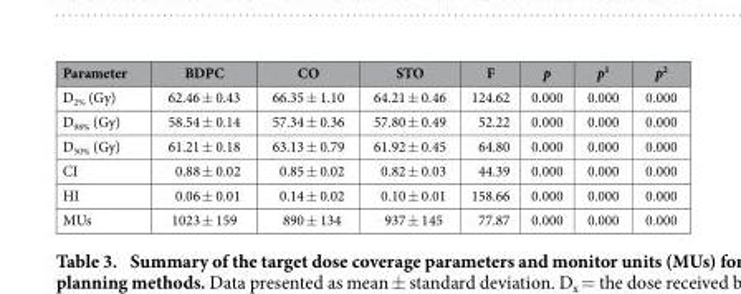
<table><thead><tr><td>Parameter</td><td>BDPC</td><td>CO</td><td>STO</td><td>F</td><td>p</td><td>p<sup>1</sup></td><td>p<sup>2</sup></td></tr></thead><tbody><tr><td>D<sub>2%</sub> (Gy)</td><td>62.46 ± 0.43</td><td>66.35 ± 1.10</td><td>64.21 ± 0.46</td><td>124.62</td><td>0.000</td><td>0.000</td><td>0.000</td></tr><tr><td>D<sub>98%</sub> (Gy)</td><td>58.54 ± 0.14</td><td>57.34 ± 0.36</td><td>57.80 ± 0.49</td><td>52.22</td><td>0.000</td><td>0.000</td><td>0.000</td></tr><tr><td>D<sub>50%</sub> (Gy)</td><td>61.21 ± 0.18</td><td>63.13 ± 0.79</td><td>61.92 ± 0.45</td><td>64.80</td><td>0.000</td><td>0.000</td><td>0.000</td></tr><tr><td>CI</td><td>0.88 ± 0.02</td><td>0.85 ± 0.02</td><td>0.82 ± 0.03</td><td>44.39</td><td>0.000</td><td>0.000</td><td>0.000</td></tr><tr><td>HI</td><td>0.06 ± 0.01</td><td>0.14 ± 0.02</td><td>0.10 ± 0.01</td><td>158.66</td><td>0.000</td><td>0.000</td><td>0.000</td></tr><tr><td>MUs</td><td>1023 ± 159</td><td>890 ± 134</td><td>937 ± 145</td><td>77.87</td><td>0.000</td><td>0.000</td><td>0.000</td></tr></tbody></table>